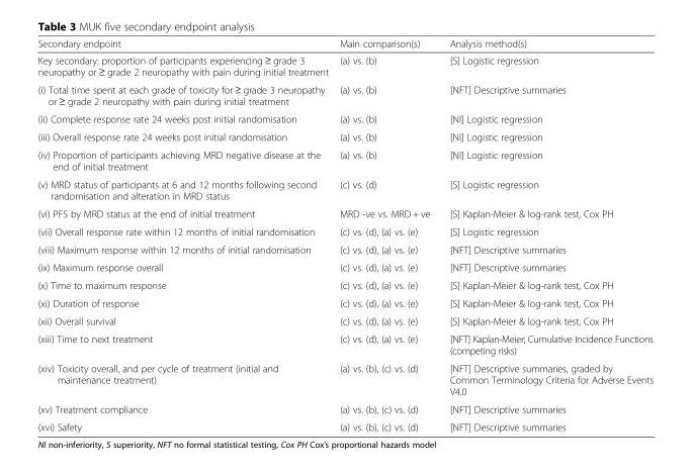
<table><thead><tr><td>Secondary endpoint</td><td>Main comparison(s)</td><td>Analysis method(s)</td></tr></thead><tbody><tr><td>Key secondary: proportion of participants experiencing ≥ grade 3 neuropathy or ≥ grade 2 neuropathy with pain during initial treatment</td><td>(a) vs. (b)</td><td>[S] Logistic regression</td></tr><tr><td>(i) Total time spent at each grade of toxicity for ≥ grade 3 neuropathy or ≥ grade 2 neuropathy with pain during initial treatment</td><td>(a) vs. (b)</td><td>[NFT] Descriptive summaries</td></tr><tr><td>(ii) Complete response rate 24 weeks post initial randomisation</td><td>(a) vs. (b)</td><td>[NI] Logistic regression</td></tr><tr><td>(iii) Overall response rate 24 weeks post initial randomisation</td><td>(a) vs. (b)</td><td>[NI] Logistic regression</td></tr><tr><td>(iv) Proportion of participants achieving MRD negative disease at the end of initial treatment</td><td>(a) vs. (b)</td><td>[NI] Logistic regression</td></tr><tr><td>(v) MRD status of participants at 6 and 12 months following second randomisation and alteration in MRD status</td><td>(c) vs. (d)</td><td>[S] Logistic regression</td></tr><tr><td>(vi) PFS by MRD status at the end of initial treatment</td><td>MRD -ve vs. MRD + ve</td><td>[S] Kaplan-Meier &amp; log-rank test, Cox PH</td></tr><tr><td>(vii) Overall response rate within 12 months of initial randomisation</td><td>(c) vs. (d), (a) vs. (e)</td><td>[S] Logistic regression</td></tr><tr><td>(viii) Maximum response within 12 months of initial randomisation</td><td>(c) vs. (d), (a) vs. (e)</td><td>[NFT] Descriptive summaries</td></tr><tr><td>(ix) Maximum response overall</td><td>(c) vs. (d), (a) vs. (e)</td><td>[NFT] Descriptive summaries</td></tr><tr><td>(x) Time to maximum response</td><td>(c) vs. (d), (a) vs. (e)</td><td>[S] Kaplan-Meier &amp; log-rank test, Cox PH</td></tr><tr><td>(xi) Duration of response</td><td>(c) vs. (d), (a) vs. (e)</td><td>[S] Kaplan-Meier &amp; log-rank test, Cox PH</td></tr><tr><td>(xii) Overall survival</td><td>(c) vs. (d), (a) vs. (e)</td><td>[S] Kaplan-Meier &amp; log-rank test, Cox PH</td></tr><tr><td>(xiii) Time to next treatment</td><td>(c) vs. (d), (a) vs. (e)</td><td>[NFT] Kaplan-Meier; Cumulative Incidence Functions (competing risks)</td></tr><tr><td>(xiv) Toxicity overall, and per cycle of treatment (initial and maintenance treatment)</td><td>(a) vs. (b), (c) vs. (d)</td><td>[NFT] Descriptive summaries, graded by Common Terminology Criteria for Adverse Events V4.0</td></tr><tr><td>(xv) Treatment compliance</td><td>(a) vs. (b), (c) vs. (d)</td><td>[NFT] Descriptive summaries</td></tr><tr><td>(xvi) Safety</td><td>(a) vs. (b), (c) vs. (d)</td><td>[NFT] Descriptive summaries</td></tr></tbody></table>